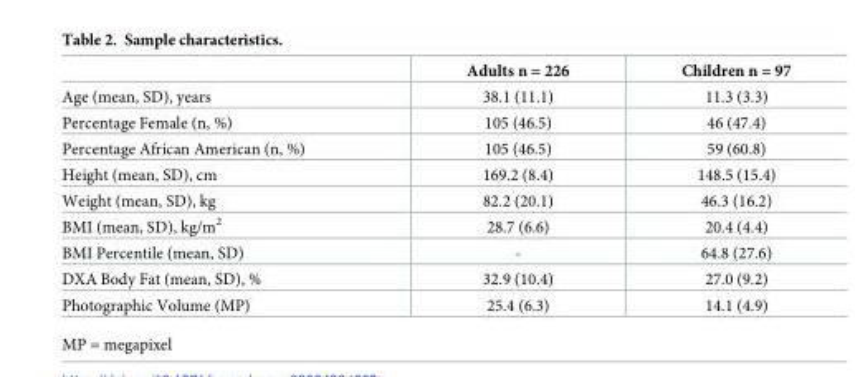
<table><thead><tr><td></td><td>Adults n = 226</td><td>Children n = 97</td></tr></thead><tbody><tr><td>Age (mean, SD), years</td><td>38.1 (11.1)</td><td>11.3 (3.3)</td></tr><tr><td>Percentage Female (n, %)</td><td>105 (46.5)</td><td>46 (47.4)</td></tr><tr><td>Percentage African American (n, %)</td><td>105 (46.5)</td><td>59 (60.8)</td></tr><tr><td>Height (mean, SD), cm</td><td>169.2 (8.4)</td><td>148.5 (15.4)</td></tr><tr><td>Weight (mean, SD), kg</td><td>82.2 (20.1)</td><td>46.3 (16.2)</td></tr><tr><td>BMI (mean, SD), kg/m<sup>2</sup></td><td>28.7 (6.6)</td><td>20.4 (4.4)</td></tr><tr><td>BMI Percentile (mean, SD)</td><td>-</td><td>64.8 (27.6)</td></tr><tr><td>DXA Body Fat (mean, SD), %</td><td>32.9 (10.4)</td><td>27.0 (9.2)</td></tr><tr><td>Photographic Volume (MP)</td><td>25.4 (6.3)</td><td>14.1 (4.9)</td></tr></tbody></table>